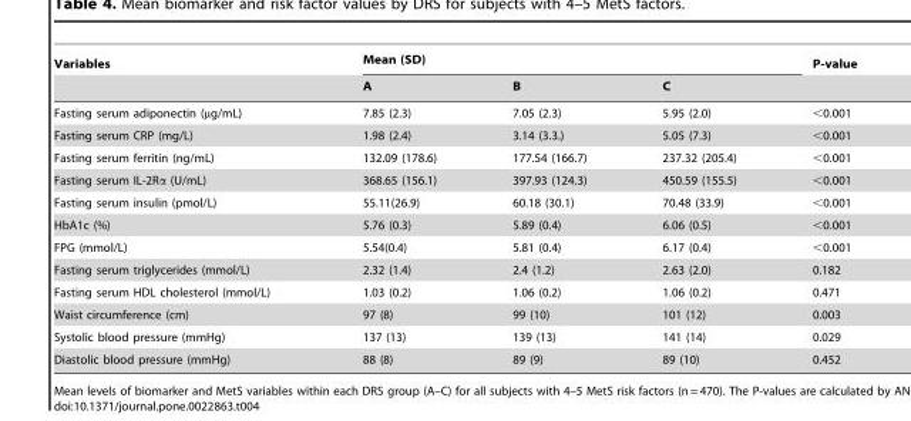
<table><thead><tr><td rowspan="2">Variables</td><td colspan="3">Mean (SD)</td><td rowspan="2">P-value</td></tr><tr><td>A</td><td>B</td><td>C</td></tr></thead><tbody><tr><td>Fasting serum adiponectin (µg/mL)</td><td>7.85 (2.3)</td><td>7.05 (2.3)</td><td>5.95 (2.0)</td><td>&lt;0.001</td></tr><tr><td>Fasting serum CRP (mg/L)</td><td>1.98 (2.4)</td><td>3.14 (3.3.)</td><td>5.05 (7.3)</td><td>&lt;0.001</td></tr><tr><td>Fasting serum ferritin (ng/mL)</td><td>132.09 (178.6)</td><td>177.54 (166.7)</td><td>237.32 (205.4)</td><td>&lt;0.001</td></tr><tr><td>Fasting serum IL-2Rα (U/mL)</td><td>368.65 (156.1)</td><td>397.93 (124.3)</td><td>450.59 (155.5)</td><td>&lt;0.001</td></tr><tr><td>Fasting serum insulin (pmol/L)</td><td>55.11(26.9)</td><td>60.18 (30.1)</td><td>70.48 (33.9)</td><td>&lt;0.001</td></tr><tr><td>HbA1c (%)</td><td>5.76 (0.3)</td><td>5.89 (0.4)</td><td>6.06 (0.5)</td><td>&lt;0.001</td></tr><tr><td>FPG (mmol/L)</td><td>5.54(0.4)</td><td>5.81 (0.4)</td><td>6.17 (0.4)</td><td>&lt;0.001</td></tr><tr><td>Fasting serum triglycerides (mmol/L)</td><td>2.32 (1.4)</td><td>2.4 (1.2)</td><td>2.63 (2.0)</td><td>0.182</td></tr><tr><td>Fasting serum HDL cholesterol (mmol/L)</td><td>1.03 (0.2)</td><td>1.06 (0.2)</td><td>1.06 (0.2)</td><td>0.471</td></tr><tr><td>Waist circumference (cm)</td><td>97 (8)</td><td>99 (10)</td><td>101 (12)</td><td>0.003</td></tr><tr><td>Systolic blood pressure (mmHg)</td><td>137 (13)</td><td>139 (13)</td><td>141 (14)</td><td>0.029</td></tr><tr><td>Diastolic blood pressure (mmHg)</td><td>88 (8)</td><td>89 (9)</td><td>89 (10)</td><td>0.452</td></tr></tbody></table>